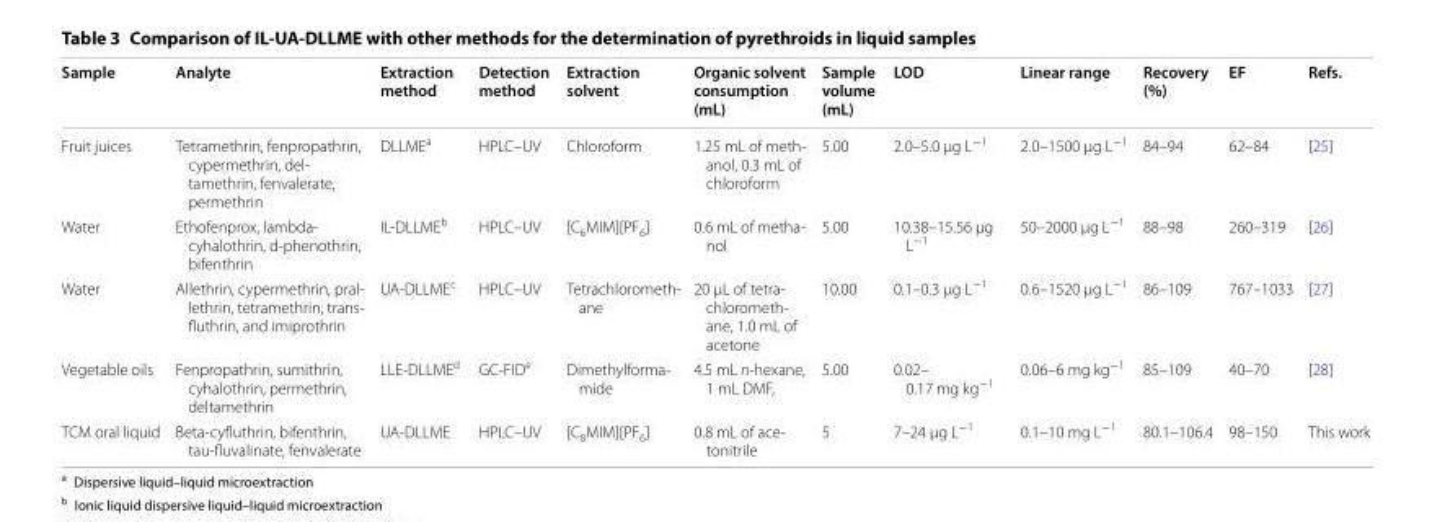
<table><thead><tr><td>Sample</td><td>Analyte</td><td>Extraction method</td><td>Detection method</td><td>Extraction solvent</td><td>Organic solvent consumption (mL)</td><td>Sample volume (mL)</td><td>LOD</td><td>Linear range</td><td>Recovery (%)</td><td>EF</td><td>Refs.</td></tr></thead><tbody><tr><td>Fruit juices</td><td>Tetramethrin, fenpropathrin, cypermethrin, del- tamethrin, fenvalerate, permethrin</td><td>DLLME<sup>a</sup></td><td>HPLC–UV</td><td>Chloroform</td><td>1.25 mL of meth- anol, 0.3 mL of chloroform</td><td>5.00</td><td>2.0–5.0 μg L<sup>−1</sup></td><td>2.0–1500 μg L<sup>−1</sup></td><td>84–94</td><td>62–84</td><td>[25]</td></tr><tr><td>Water</td><td>Ethofenprox, lambda- cyhalothrin, d-phenothrin, bifenthrin</td><td>IL-DLLME<sup>b</sup></td><td>HPLC–UV</td><td>[C<sub>6</sub>MIM][PF<sub>6</sub>]</td><td>0.6 mL of metha- nol</td><td>5.00</td><td>10.38–15.56 μg L<sup>−1</sup></td><td>50–2000 μg L<sup>−1</sup></td><td>88–98</td><td>260–319</td><td>[26]</td></tr><tr><td>Water</td><td>Allethrin, cypermethrin, pral- lethrin, tetramethrin, trans- fluthrin, and imiprothrin</td><td>UA-DLLME<sup>c</sup></td><td>HPLC–UV</td><td>Tetrachlorometh- ane</td><td>20 μL of tetra- chlorometh- ane, 1.0 mL of acetone</td><td>10.00</td><td>0.1–0.3 μg L<sup>−1</sup></td><td>0.6–1520 μg L<sup>−1</sup></td><td>86–109</td><td>767–1033</td><td>[27]</td></tr><tr><td>Vegetable oils</td><td>Fenpropathrin, sumithrin, cyhalothrin, permethrin, deltamethrin</td><td>LLE-DLLME<sup>d</sup></td><td>GC-FID<sup>e</sup></td><td>Dimethylforma- mide</td><td>4.5 mL n-hexane, 1 mL DMF,</td><td>5.00</td><td>0.02– 0.17 mg kg<sup>−1</sup></td><td>0.06–6 mg kg<sup>−1</sup></td><td>85–109</td><td>40–70</td><td>[28]</td></tr><tr><td>TCM oral liquid</td><td>Beta-cyfluthrin, bifenthrin, tau-fluvalinate, fenvalerate</td><td>UA-DLLME</td><td>HPLC–UV</td><td>[C<sub>8</sub>MIM][PF<sub>6</sub>]</td><td>0.8 mL of ace- tonitrile</td><td>5</td><td>7–24 μg L<sup>−1</sup></td><td>0.1–10 mg L<sup>−1</sup></td><td>80.1–106.4</td><td>98–150</td><td>This work</td></tr></tbody></table>